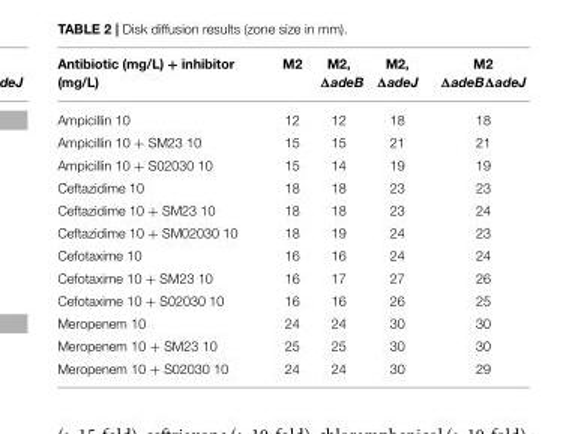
<table><thead><tr><td>Antibiotic (mg/L) + inhibitor (mg/L)</td><td>M2</td><td>M2, ΔadeB</td><td>M2, ΔadeJ</td><td>M2 ΔadeBΔadeJ</td></tr></thead><tbody><tr><td>Ampicillin 10</td><td>12</td><td>12</td><td>18</td><td>18</td></tr><tr><td>Ampicillin 10 + SM23 10</td><td>15</td><td>15</td><td>21</td><td>21</td></tr><tr><td>Ampicillin 10 + S02030 10</td><td>15</td><td>14</td><td>19</td><td>19</td></tr><tr><td>Ceftazidime 10</td><td>18</td><td>18</td><td>23</td><td>23</td></tr><tr><td>Ceftazidime 10 + SM23 10</td><td>18</td><td>18</td><td>23</td><td>24</td></tr><tr><td>Ceftazidime 10 + SM02030 10</td><td>18</td><td>19</td><td>24</td><td>23</td></tr><tr><td>Cefotaxime 10</td><td>16</td><td>16</td><td>24</td><td>24</td></tr><tr><td>Cefotaxime 10 + SM23 10</td><td>16</td><td>17</td><td>27</td><td>26</td></tr><tr><td>Cefotaxime 10 + S02030 10</td><td>16</td><td>16</td><td>26</td><td>25</td></tr><tr><td>Meropenem 10</td><td>24</td><td>24</td><td>30</td><td>30</td></tr><tr><td>Meropenem 10 + SM23 10</td><td>25</td><td>25</td><td>30</td><td>30</td></tr><tr><td>Meropenem 10 + S02030 10</td><td>24</td><td>24</td><td>30</td><td>29</td></tr></tbody></table>